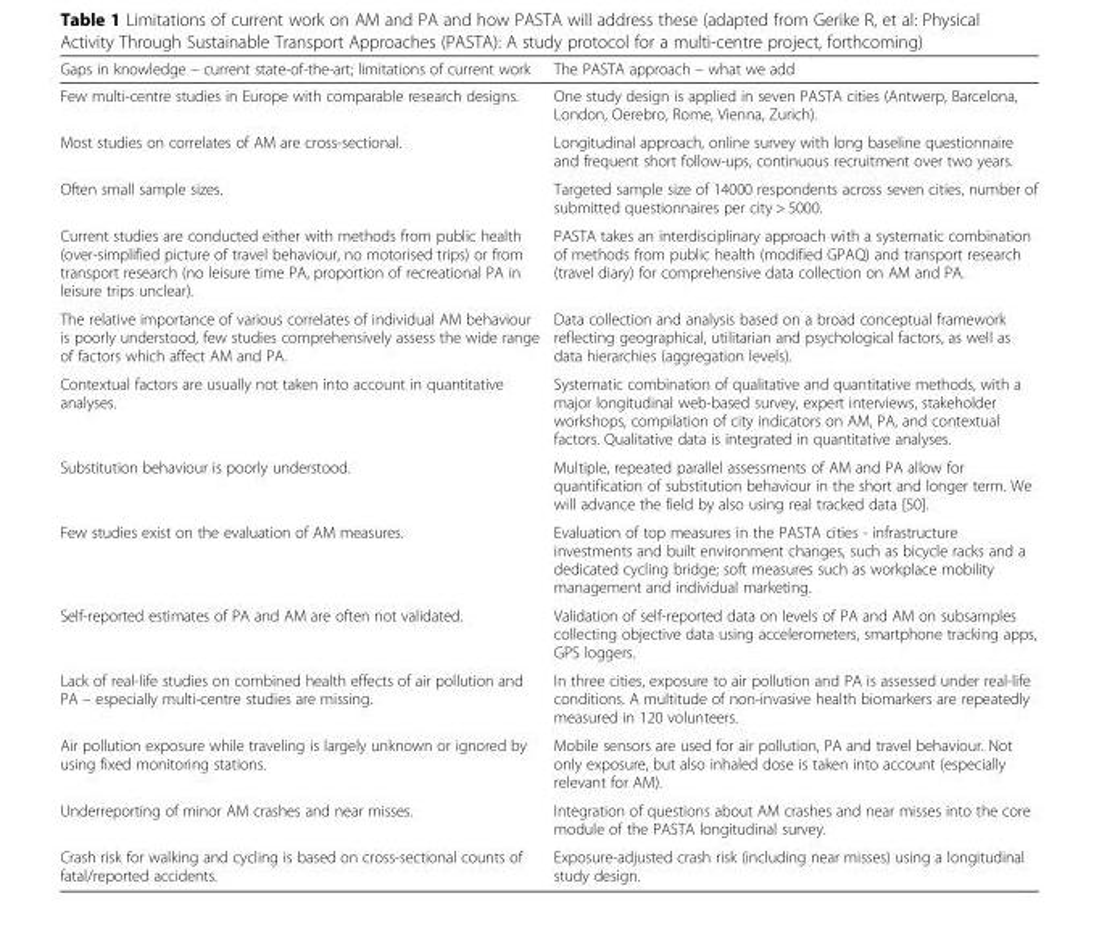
<table><thead><tr><td>Gaps in knowledge – current state-of-the-art; limitations of current work</td><td>The PASTA approach – what we add</td></tr></thead><tbody><tr><td>Few multi-centre studies in Europe with comparable research designs.</td><td>One study design is applied in seven PASTA cities (Antwerp, Barcelona, London, Oerebro, Rome, Vienna, Zurich).</td></tr><tr><td>Most studies on correlates of AM are cross-sectional.</td><td>Longitudinal approach, online survey with long baseline questionnaire and frequent short follow-ups, continuous recruitment over two years.</td></tr><tr><td>Often small sample sizes.</td><td>Targeted sample size of 14000 respondents across seven cities, number of submitted questionnaires per city &gt; 5000.</td></tr><tr><td>Current studies are conducted either with methods from public health (over-simplified picture of travel behaviour, no motorised trips) or from transport research (no leisure time PA, proportion of recreational PA in leisure trips unclear).</td><td>PASTA takes an interdisciplinary approach with a systematic combination of methods from public health (modified GPAQ) and transport research (travel diary) for comprehensive data collection on AM and PA.</td></tr><tr><td>The relative importance of various correlates of individual AM behaviour is poorly understood, few studies comprehensively assess the wide range of factors which affect AM and PA.</td><td>Data collection and analysis based on a broad conceptual framework reflecting geographical, utilitarian and psychological factors, as well as data hierarchies (aggregation levels).</td></tr><tr><td>Contextual factors are usually not taken into account in quantitative analyses.</td><td>Systematic combination of qualitative and quantitative methods, with a major longitudinal web-based survey, expert interviews, stakeholder workshops, compilation of city indicators on AM, PA, and contextual factors. Qualitative data is integrated in quantitative analyses.</td></tr><tr><td>Substitution behaviour is poorly understood.</td><td>Multiple, repeated parallel assessments of AM and PA allow for quantification of substitution behaviour in the short and longer term. We will advance the field by also using real tracked data [50].</td></tr><tr><td>Few studies exist on the evaluation of AM measures.</td><td>Evaluation of top measures in the PASTA cities - infrastructure investments and built environment changes, such as bicycle racks and a dedicated cycling bridge; soft measures such as workplace mobility management and individual marketing.</td></tr><tr><td>Self-reported estimates of PA and AM are often not validated.</td><td>Validation of self-reported data on levels of PA and AM on subsamples collecting objective data using accelerometers, smartphone tracking apps, GPS loggers.</td></tr><tr><td>Lack of real-life studies on combined health effects of air pollution and PA – especially multi-centre studies are missing.</td><td>In three cities, exposure to air pollution and PA is assessed under real-life conditions. A multitude of non-invasive health biomarkers are repeatedly measured in 120 volunteers.</td></tr><tr><td>Air pollution exposure while traveling is largely unknown or ignored by using fixed monitoring stations.</td><td>Mobile sensors are used for air pollution, PA and travel behaviour. Not only exposure, but also inhaled dose is taken into account (especially relevant for AM).</td></tr><tr><td>Underreporting of minor AM crashes and near misses.</td><td>Integration of questions about AM crashes and near misses into the core module of the PASTA longitudinal survey.</td></tr><tr><td>Crash risk for walking and cycling is based on cross-sectional counts of fatal/reported accidents.</td><td>Exposure-adjusted crash risk (including near misses) using a longitudinal study design.</td></tr></tbody></table>